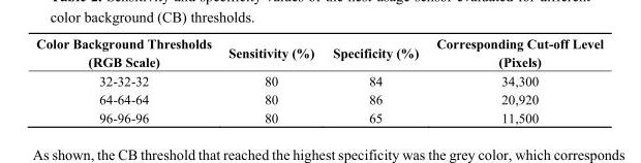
<table><thead><tr><td>Color Background Thresholds (RGB Scale)</td><td>Sensitivity (%)</td><td>Specificity (%)</td><td>Corresponding Cut-off Level (Pixels)</td></tr></thead><tbody><tr><td>32-32-32</td><td>80</td><td>84</td><td>34,300</td></tr><tr><td>64-64-64</td><td>80</td><td>86</td><td>20,920</td></tr><tr><td>96-96-96</td><td>80</td><td>65</td><td>11,500</td></tr></tbody></table>